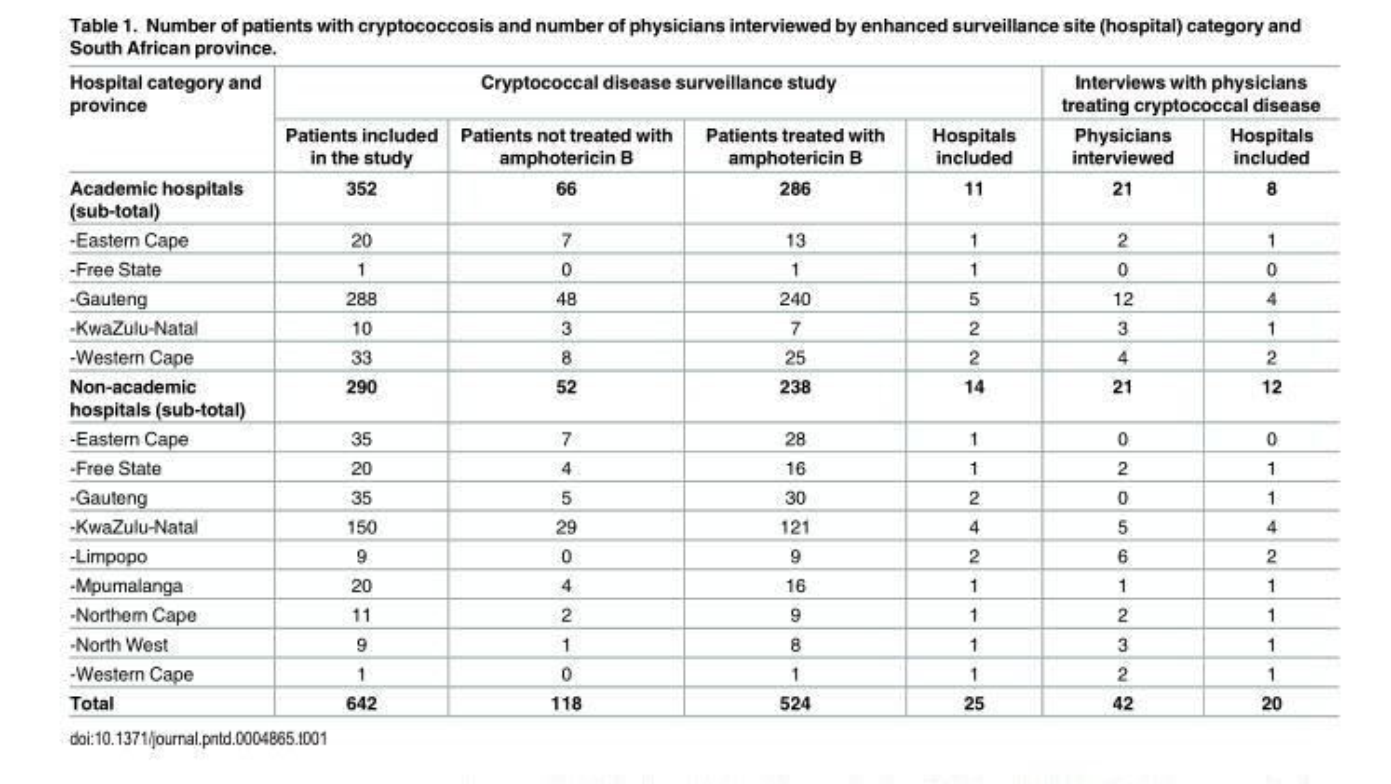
<table><thead><tr><td rowspan="2">Hospital category and province</td><td colspan="4">Cryptococcal disease surveillance study</td><td colspan="2">Interviews with physicians treating cryptococcal disease</td></tr><tr><td>Patients included in the study</td><td>Patients not treated with amphotericin B</td><td>Patients treated with amphotericin B</td><td>Hospitals included</td><td>Physicians interviewed</td><td>Hospitals included</td></tr></thead><tbody><tr><td>Academic hospitals (sub-total)</td><td>352</td><td>66</td><td>286</td><td>11</td><td>21</td><td>8</td></tr><tr><td>-Eastern Cape</td><td>20</td><td>7</td><td>13</td><td>1</td><td>2</td><td>1</td></tr><tr><td>-Free State</td><td>1</td><td>0</td><td>1</td><td>1</td><td>0</td><td>0</td></tr><tr><td>-Gauteng</td><td>288</td><td>48</td><td>240</td><td>5</td><td>12</td><td>4</td></tr><tr><td>-KwaZulu-Natal</td><td>10</td><td>3</td><td>7</td><td>2</td><td>3</td><td>1</td></tr><tr><td>-Western Cape</td><td>33</td><td>8</td><td>25</td><td>2</td><td>4</td><td>2</td></tr><tr><td>Non-academic hospitals (sub-total)</td><td>290</td><td>52</td><td>238</td><td>14</td><td>21</td><td>12</td></tr><tr><td>-Eastern Cape</td><td>35</td><td>7</td><td>28</td><td>1</td><td>0</td><td>0</td></tr><tr><td>-Free State</td><td>20</td><td>4</td><td>16</td><td>1</td><td>2</td><td>1</td></tr><tr><td>-Gauteng</td><td>35</td><td>5</td><td>30</td><td>2</td><td>0</td><td>1</td></tr><tr><td>-KwaZulu-Natal</td><td>150</td><td>29</td><td>121</td><td>4</td><td>5</td><td>4</td></tr><tr><td>-Limpopo</td><td>9</td><td>0</td><td>9</td><td>2</td><td>6</td><td>2</td></tr><tr><td>-Mpumalanga</td><td>20</td><td>4</td><td>16</td><td>1</td><td>1</td><td>1</td></tr><tr><td>-Northern Cape</td><td>11</td><td>2</td><td>9</td><td>1</td><td>2</td><td>1</td></tr><tr><td>-North West</td><td>9</td><td>1</td><td>8</td><td>1</td><td>3</td><td>1</td></tr><tr><td>-Western Cape</td><td>1</td><td>0</td><td>1</td><td>1</td><td>2</td><td>1</td></tr><tr><td>Total</td><td>642</td><td>118</td><td>524</td><td>25</td><td>42</td><td>20</td></tr></tbody></table>